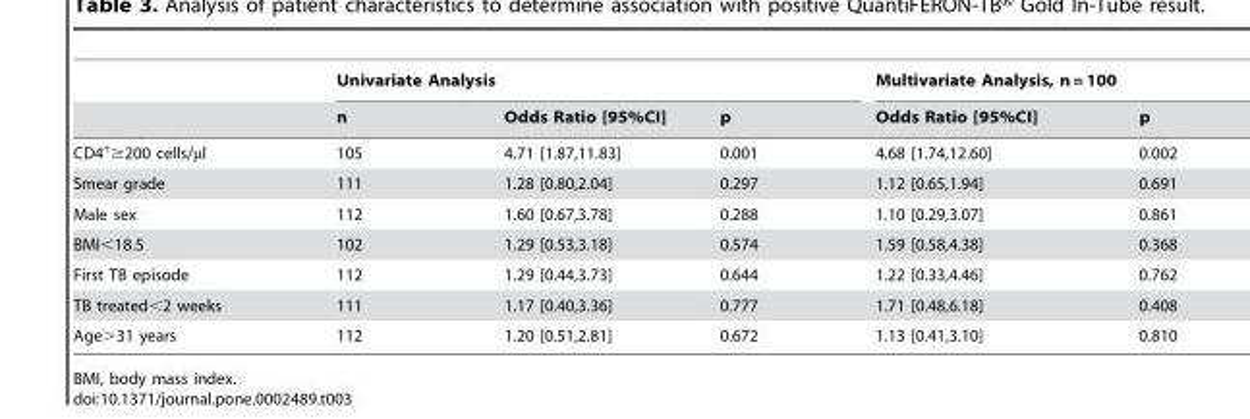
<table><thead><tr><td rowspan="2"></td><td colspan="3">Univariate Analysis</td><td colspan="2">Multivariate Analysis, n = 100</td></tr><tr><td>n</td><td>Odds Ratio [95%CI]</td><td>p</td><td>Odds Ratio [95%CI]</td><td>p</td></tr></thead><tbody><tr><td>CD4<sup>+</sup>≥200 cells/μl</td><td>105</td><td>4.71 [1.87,11.83]</td><td>0.001</td><td>4.68 [1.74,12.60]</td><td>0.002</td></tr><tr><td>Smear grade</td><td>111</td><td>1.28 [0.80,2.04]</td><td>0.297</td><td>1.12 [0.65,1.94]</td><td>0.691</td></tr><tr><td>Male sex</td><td>112</td><td>1.60 [0.67,3.78]</td><td>0.288</td><td>1.10 [0.29,3.07]</td><td>0.861</td></tr><tr><td>BMI&lt;18.5</td><td>102</td><td>1.29 [0.53,3.18]</td><td>0.574</td><td>1.59 [0.58,4.38]</td><td>0.368</td></tr><tr><td>First TB episode</td><td>112</td><td>1.29 [0.44,3.73]</td><td>0.644</td><td>1.22 [0.33,4.46]</td><td>0.762</td></tr><tr><td>TB treated&lt;2 weeks</td><td>111</td><td>1.17 [0.40,3.36]</td><td>0.777</td><td>1.71 [0.48,6.18]</td><td>0.408</td></tr><tr><td>Age&gt;31 years</td><td>112</td><td>1.20 [0.51,2.81]</td><td>0.672</td><td>1.13 [0.41,3.10]</td><td>0.810</td></tr></tbody></table>